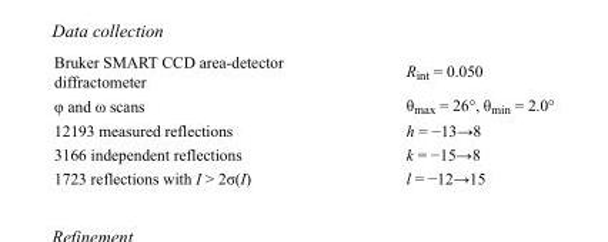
<table><tbody><tr><td>Bruker SMART CCD area-detector diffractometer</td><td>R<sub>int</sub> = 0.050</td></tr><tr><td>φ and ω scans</td><td>θ<sub>max</sub> = 26°, θ<sub>min</sub> = 2.0°</td></tr><tr><td>12193 measured reflections</td><td>h = −13→8</td></tr><tr><td>3166 independent reflections</td><td>k = −15→8</td></tr><tr><td>1723 reflections with I &gt; 2σ(I)</td><td>l = −12→15</td></tr></tbody></table>